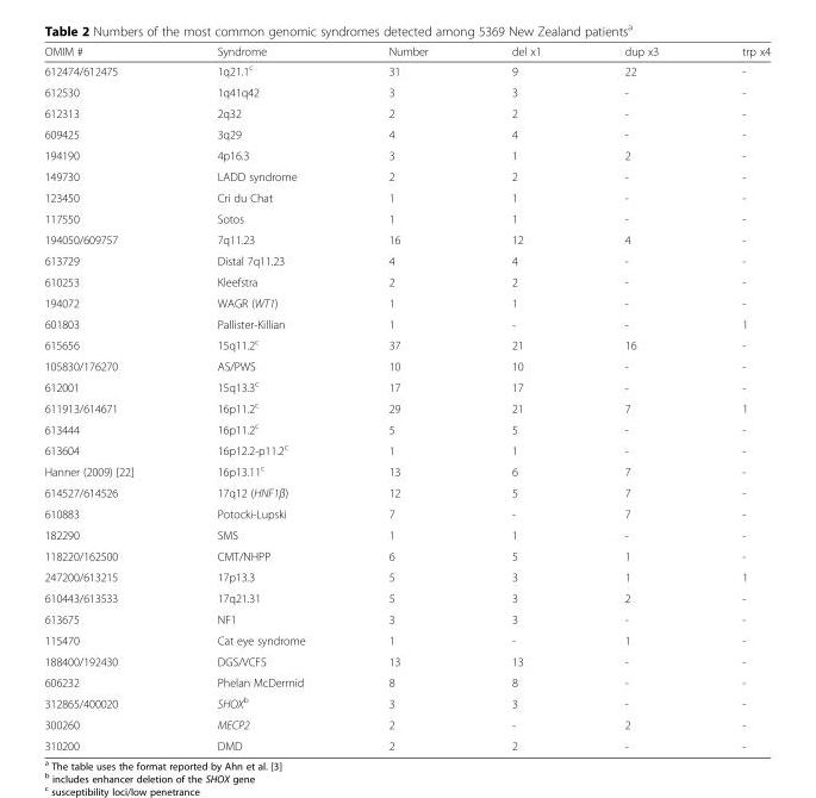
<table><thead><tr><td>OMIM #</td><td>Syndrome</td><td>Number</td><td>del x1</td><td>dup x3</td><td>trp x4</td></tr></thead><tbody><tr><td>612474/612475</td><td>1q21.1<sup>c</sup></td><td>31</td><td>9</td><td>22</td><td>-</td></tr><tr><td>612530</td><td>1q41q42</td><td>3</td><td>3</td><td>-</td><td>-</td></tr><tr><td>612313</td><td>2q32</td><td>2</td><td>2</td><td>-</td><td>-</td></tr><tr><td>609425</td><td>3q29</td><td>4</td><td>4</td><td>-</td><td>-</td></tr><tr><td>194190</td><td>4p16.3</td><td>3</td><td>1</td><td>2</td><td>-</td></tr><tr><td>149730</td><td>LADD syndrome</td><td>2</td><td>2</td><td>-</td><td>-</td></tr><tr><td>123450</td><td>Cri du Chat</td><td>1</td><td>1</td><td>-</td><td>-</td></tr><tr><td>117550</td><td>Sotos</td><td>1</td><td>1</td><td>-</td><td>-</td></tr><tr><td>194050/609757</td><td>7q11.23</td><td>16</td><td>12</td><td>4</td><td>-</td></tr><tr><td>613729</td><td>Distal 7q11.23</td><td>4</td><td>4</td><td>-</td><td>-</td></tr><tr><td>610253</td><td>Kleefstra</td><td>2</td><td>2</td><td>-</td><td>-</td></tr><tr><td>194072</td><td>WAGR (WT1)</td><td>1</td><td>1</td><td>-</td><td>-</td></tr><tr><td>601803</td><td>Pallister-Killian</td><td>1</td><td>-</td><td>-</td><td>1</td></tr><tr><td>615656</td><td>15q11.2<sup>c</sup></td><td>37</td><td>21</td><td>16</td><td>-</td></tr><tr><td>105830/176270</td><td>AS/PWS</td><td>10</td><td>10</td><td>-</td><td>-</td></tr><tr><td>612001</td><td>15q13.3<sup>c</sup></td><td>17</td><td>17</td><td>-</td><td>-</td></tr><tr><td>611913/614671</td><td>16p11.2<sup>c</sup></td><td>29</td><td>21</td><td>7</td><td>1</td></tr><tr><td>613444</td><td>16p11.2<sup>c</sup></td><td>5</td><td>5</td><td>-</td><td>-</td></tr><tr><td>613604</td><td>16p12.2-p11.2<sup>c</sup></td><td>1</td><td>1</td><td>-</td><td>-</td></tr><tr><td>Hanner (2009) [22]</td><td>16p13.11<sup>c</sup></td><td>13</td><td>6</td><td>7</td><td>-</td></tr><tr><td>614527/614526</td><td>17q12 (HNF1β)</td><td>12</td><td>5</td><td>7</td><td>-</td></tr><tr><td>610883</td><td>Potocki-Lupski</td><td>7</td><td>-</td><td>7</td><td>-</td></tr><tr><td>182290</td><td>SMS</td><td>1</td><td>1</td><td>-</td><td>-</td></tr><tr><td>118220/162500</td><td>CMT/NHPP</td><td>6</td><td>5</td><td>1</td><td>-</td></tr><tr><td>247200/613215</td><td>17p13.3</td><td>5</td><td>3</td><td>1</td><td>1</td></tr><tr><td>610443/613533</td><td>17q21.31</td><td>5</td><td>3</td><td>2</td><td>-</td></tr><tr><td>613675</td><td>NF1</td><td>3</td><td>3</td><td>-</td><td>-</td></tr><tr><td>115470</td><td>Cat eye syndrome</td><td>1</td><td>-</td><td>1</td><td>-</td></tr><tr><td>188400/192430</td><td>DGS/VCFS</td><td>13</td><td>13</td><td>-</td><td>-</td></tr><tr><td>606232</td><td>Phelan McDermid</td><td>8</td><td>8</td><td>-</td><td>-</td></tr><tr><td>312865/400020</td><td>SHOX<sup>b</sup></td><td>3</td><td>3</td><td>-</td><td>-</td></tr><tr><td>300260</td><td>MECP2</td><td>2</td><td>-</td><td>2</td><td>-</td></tr><tr><td>310200</td><td>DMD</td><td>2</td><td>2</td><td>-</td><td>-</td></tr></tbody></table>